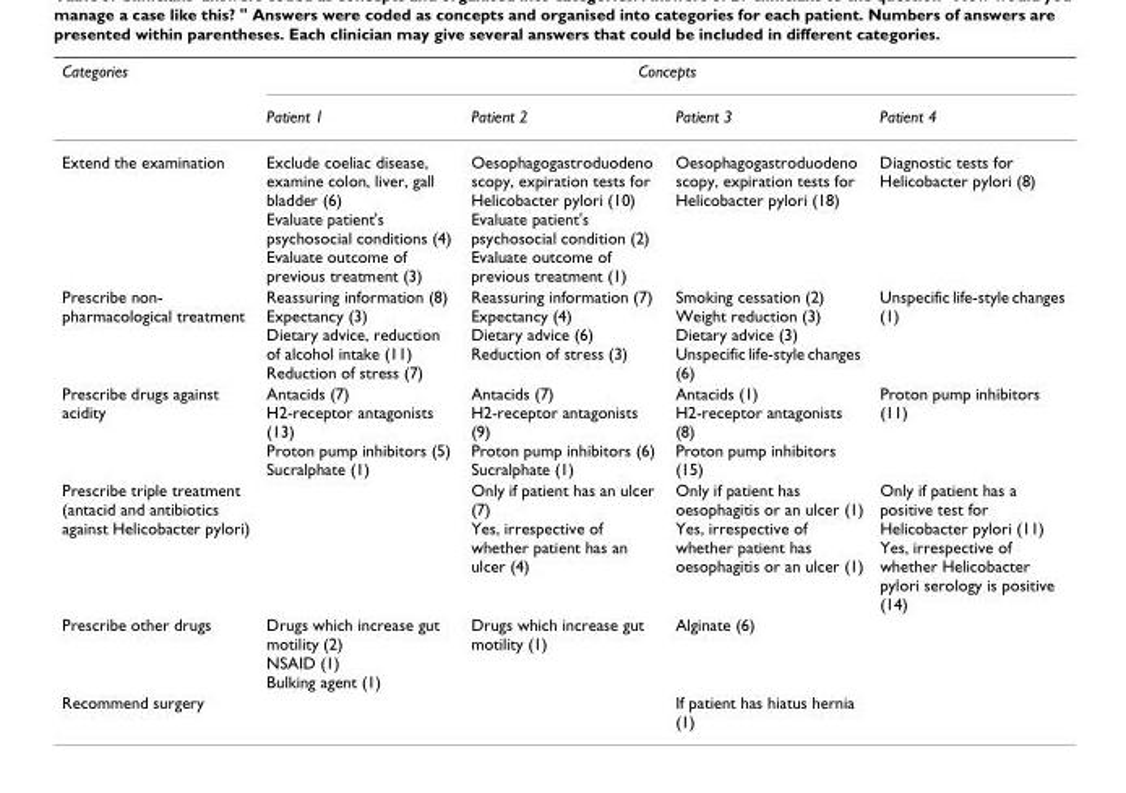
<table><thead><tr><td rowspan="2">Categories</td><td colspan="4">Concepts</td></tr><tr><td>Patient 1</td><td>Patient 2</td><td>Patient 3</td><td>Patient 4</td></tr></thead><tbody><tr><td>Extend the examination</td><td>Exclude coeliac disease, examine colon, liver, gall bladder (6) Evaluate patient&#x27;s psychosocial conditions (4) Evaluate outcome of previous treatment (3)</td><td>Oesophagogastroduodeno scopy, expiration tests for Helicobacter pylori (10) Evaluate patient&#x27;s psychosocial condition (2) Evaluate outcome of previous treatment (1)</td><td>Oesophagogastroduodeno scopy, expiration tests for Helicobacter pylori (18)</td><td>Diagnostic tests for Helicobacter pylori (8)</td></tr><tr><td>Prescribe non- pharmacological treatment</td><td>Reassuring information (8) Expectancy (3) Dietary advice, reduction of alcohol intake (11) Reduction of stress (7)</td><td>Reassuring information (7) Expectancy (4) Dietary advice (6) Reduction of stress (3)</td><td>Smoking cessation (2) Weight reduction (3) Dietary advice (3) Unspecific life-style changes (6)</td><td>Unspecific life-style changes (1)</td></tr><tr><td>Prescribe drugs against acidity</td><td>Antacids (7) H2-receptor antagonists (13) Proton pump inhibitors (5) Sucralphate (1)</td><td>Antacids (7) H2-receptor antagonists (9) Proton pump inhibitors (6) Sucralphate (1)</td><td>Antacids (1) H2-receptor antagonists (8) Proton pump inhibitors (15)</td><td>Proton pump inhibitors (11)</td></tr><tr><td>Prescribe triple treatment (antacid and antibiotics against Helicobacter pylori)</td><td></td><td>Only if patient has an ulcer (7) Yes, irrespective of whether patient has an ulcer (4)</td><td>Only if patient has oesophagitis or an ulcer (1) Yes, irrespective of whether patient has oesophagitis or an ulcer (1)</td><td>Only if patient has a positive test for Helicobacter pylori (11) Yes, irrespective of whether Helicobacter pylori serology is positive (14)</td></tr><tr><td>Prescribe other drugs</td><td>Drugs which increase gut motility (2) NSAID (1) Bulking agent (1)</td><td>Drugs which increase gut motility (1)</td><td>Alginate (6)</td><td></td></tr><tr><td>Recommend surgery</td><td></td><td></td><td>If patient has hiatus hernia (1)</td><td></td></tr></tbody></table>